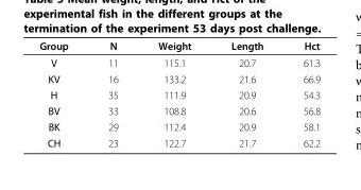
<table><thead><tr><td>Group</td><td>N</td><td>Weight</td><td>Length</td><td>Hct</td></tr></thead><tbody><tr><td>V</td><td>11</td><td>115.1</td><td>20.7</td><td>61.3</td></tr><tr><td>KV</td><td>16</td><td>133.2</td><td>21.6</td><td>66.9</td></tr><tr><td>H</td><td>35</td><td>111.9</td><td>20.9</td><td>54.3</td></tr><tr><td>BV</td><td>33</td><td>108.8</td><td>20.6</td><td>56.8</td></tr><tr><td>BK</td><td>29</td><td>112.4</td><td>20.9</td><td>58.1</td></tr><tr><td>CH</td><td>23</td><td>122.7</td><td>21.7</td><td>62.2</td></tr></tbody></table>